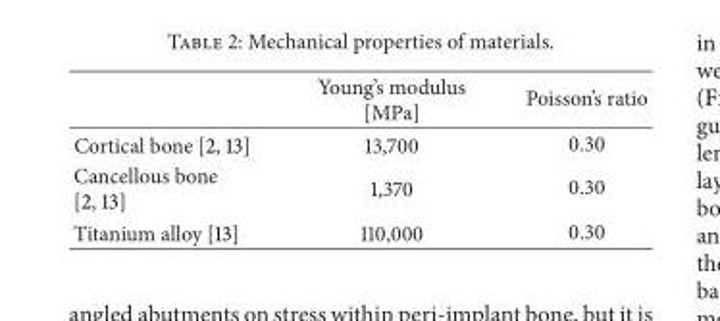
<table><thead><tr><td></td><td>Young’s modulus [MPa]</td><td>Poisson’s ratio</td></tr></thead><tbody><tr><td>Cortical bone [2, 13]</td><td>13,700</td><td>0.30</td></tr><tr><td>Cancellous bone [2, 13]</td><td>1,370</td><td>0.30</td></tr><tr><td>Titanium alloy [13]</td><td>110,000</td><td>0.30</td></tr></tbody></table>